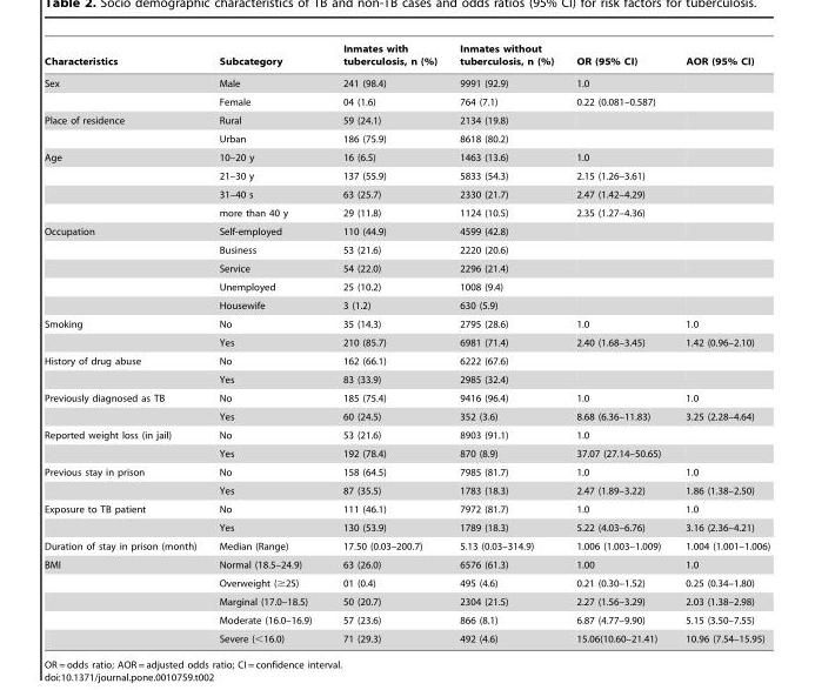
<table><thead><tr><td>Characteristics</td><td>Subcategory</td><td>Inmates with tuberculosis, n (%)</td><td>Inmates without tuberculosis, n (%)</td><td>OR (95% CI)</td><td>AOR (95% CI)</td></tr></thead><tbody><tr><td rowspan="2">Sex</td><td>Male</td><td>241 (98.4)</td><td>9991 (92.9)</td><td>1.0</td><td></td></tr><tr><td>Female</td><td>04 (1.6)</td><td>764 (7.1)</td><td>0.22 (0.081–0.587)</td><td></td></tr><tr><td rowspan="2">Place of residence</td><td>Rural</td><td>59 (24.1)</td><td>2134 (19.8)</td><td></td><td></td></tr><tr><td>Urban</td><td>186 (75.9)</td><td>8618 (80.2)</td><td></td><td></td></tr><tr><td rowspan="4">Age</td><td>10–20 y</td><td>16 (6.5)</td><td>1463 (13.6)</td><td>1.0</td><td></td></tr><tr><td>21–30 y</td><td>137 (55.9)</td><td>5833 (54.3)</td><td>2.15 (1.26–3.61)</td><td></td></tr><tr><td>31–40 s</td><td>63 (25.7)</td><td>2330 (21.7)</td><td>2.47 (1.42–4.29)</td><td></td></tr><tr><td>more than 40 y</td><td>29 (11.8)</td><td>1124 (10.5)</td><td>2.35 (1.27–4.36)</td><td></td></tr><tr><td rowspan="5">Occupation</td><td>Self-employed</td><td>110 (44.9)</td><td>4599 (42.8)</td><td></td><td></td></tr><tr><td>Business</td><td>53 (21.6)</td><td>2220 (20.6)</td><td></td><td></td></tr><tr><td>Service</td><td>54 (22.0)</td><td>2296 (21.4)</td><td></td><td></td></tr><tr><td>Unemployed</td><td>25 (10.2)</td><td>1008 (9.4)</td><td></td><td></td></tr><tr><td>Housewife</td><td>3 (1.2)</td><td>630 (5.9)</td><td></td><td></td></tr><tr><td rowspan="2">Smoking</td><td>No</td><td>35 (14.3)</td><td>2795 (28.6)</td><td>1.0</td><td>1.0</td></tr><tr><td>Yes</td><td>210 (85.7)</td><td>6981 (71.4)</td><td>2.40 (1.68–3.45)</td><td>1.42 (0.96–2.10)</td></tr><tr><td rowspan="2">History of drug abuse</td><td>No</td><td>162 (66.1)</td><td>6222 (67.6)</td><td></td><td></td></tr><tr><td>Yes</td><td>83 (33.9)</td><td>2985 (32.4)</td><td></td><td></td></tr><tr><td rowspan="2">Previously diagnosed as TB</td><td>No</td><td>185 (75.4)</td><td>9416 (96.4)</td><td>1.0</td><td>1.0</td></tr><tr><td>Yes</td><td>60 (24.5)</td><td>352 (3.6)</td><td>8.68 (6.36–11.83)</td><td>3.25 (2.28–4.64)</td></tr><tr><td rowspan="2">Reported weight loss (in jail)</td><td>No</td><td>53 (21.6)</td><td>8903 (91.1)</td><td>1.0</td><td></td></tr><tr><td>Yes</td><td>192 (78.4)</td><td>870 (8.9)</td><td>37.07 (27.14–50.65)</td><td></td></tr><tr><td rowspan="2">Previous stay in prison</td><td>No</td><td>158 (64.5)</td><td>7985 (81.7)</td><td>1.0</td><td>1.0</td></tr><tr><td>Yes</td><td>87 (35.5)</td><td>1783 (18.3)</td><td>2.47 (1.89–3.22)</td><td>1.86 (1.38–2.50)</td></tr><tr><td rowspan="2">Exposure to TB patient</td><td>No</td><td>111 (46.1)</td><td>7972 (81.7)</td><td>1.0</td><td>1.0</td></tr><tr><td>Yes</td><td>130 (53.9)</td><td>1789 (18.3)</td><td>5.22 (4.03–6.76)</td><td>3.16 (2.36–4.21)</td></tr><tr><td>Duration of stay in prison (month)</td><td>Median (Range)</td><td>17.50 (0.03–200.7)</td><td>5.13 (0.03–314.9)</td><td>1.006 (1.003–1.009)</td><td>1.004 (1.001–1.006)</td></tr><tr><td rowspan="5">BMI</td><td>Normal (18.5–24.9)</td><td>63 (26.0)</td><td>6576 (61.3)</td><td>1.00</td><td>1.0</td></tr><tr><td>Overweight (≥25)</td><td>01 (0.4)</td><td>495 (4.6)</td><td>0.21 (0.30–1.52)</td><td>0.25 (0.34–1.80)</td></tr><tr><td>Marginal (17.0–18.5)</td><td>50 (20.7)</td><td>2304 (21.5)</td><td>2.27 (1.56–3.29)</td><td>2.03 (1.38–2.98)</td></tr><tr><td>Moderate (16.0–16.9)</td><td>57 (23.6)</td><td>866 (8.1)</td><td>6.87 (4.77–9.90)</td><td>5.15 (3.50–7.55)</td></tr><tr><td>Severe (&lt;16.0)</td><td>71 (29.3)</td><td>492 (4.6)</td><td>15.06(10.60–21.41)</td><td>10.96 (7.54–15.95)</td></tr></tbody></table>